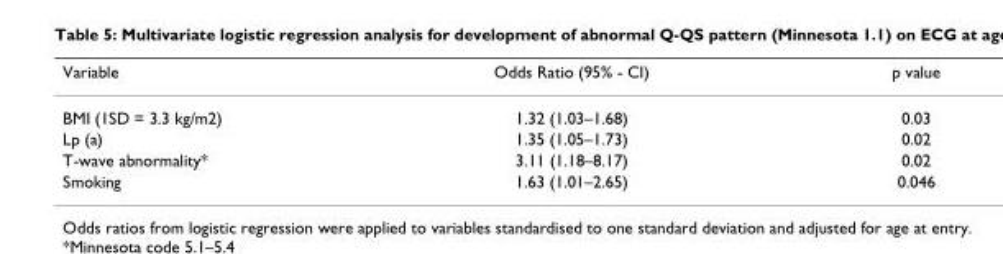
<table><thead><tr><td>Variable</td><td>Odds Ratio (95% - CI)</td><td>p value</td></tr></thead><tbody><tr><td>BMI (1SD = 3.3 kg/m2)</td><td>1.32 (1.03–1.68)</td><td>0.03</td></tr><tr><td>Lp (a)</td><td>1.35 (1.05–1.73)</td><td>0.02</td></tr><tr><td>T-wave abnormality*</td><td>3.11 (1.18–8.17)</td><td>0.02</td></tr><tr><td>Smoking</td><td>1.63 (1.01–2.65)</td><td>0.046</td></tr></tbody></table>